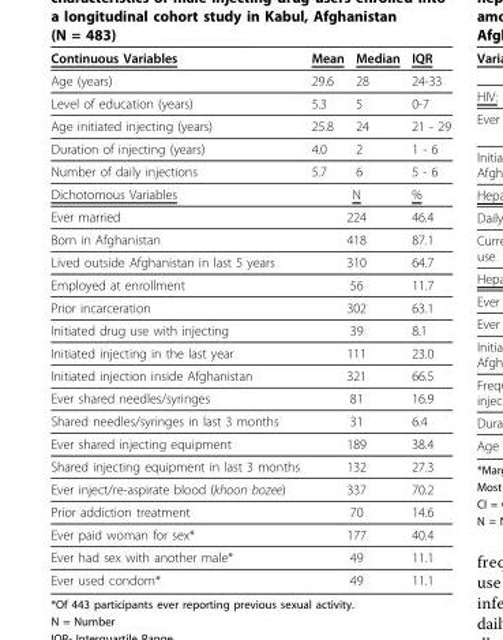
<table><thead><tr><td>Continuous Variables</td><td>Mean</td><td>Median</td><td>IQR</td></tr></thead><tbody><tr><td>Age (years)</td><td>29.6</td><td>28</td><td>24-33</td></tr><tr><td>Level of education (years)</td><td>5.3</td><td>5</td><td>0-7</td></tr><tr><td>Age initiated injecting (years)</td><td>25.8</td><td>24</td><td>21 - 29</td></tr><tr><td>Duration of injecting (years)</td><td>4.0</td><td>2</td><td>1 - 6</td></tr><tr><td>Number of daily injections</td><td>5.7</td><td>6</td><td>5 - 6</td></tr><tr><td>Dichotomous Variables</td><td colspan="2">N</td><td>%</td></tr><tr><td>Ever married</td><td colspan="2">224</td><td>46.4</td></tr><tr><td>Born in Afghanistan</td><td colspan="2">418</td><td>87.1</td></tr><tr><td>Lived outside Afghanistan in last 5 years</td><td colspan="2">310</td><td>64.7</td></tr><tr><td>Employed at enrollment</td><td colspan="2">56</td><td>11.7</td></tr><tr><td>Prior incarceration</td><td colspan="2">302</td><td>63.1</td></tr><tr><td>Initiated drug use with injecting</td><td colspan="2">39</td><td>8.1</td></tr><tr><td>Initiated injecting in the last year</td><td colspan="2">111</td><td>23.0</td></tr><tr><td>Initiated injection inside Afghanistan</td><td colspan="2">321</td><td>66.5</td></tr><tr><td>Ever shared needles/syringes</td><td colspan="2">81</td><td>16.9</td></tr><tr><td>Shared needles/syringes in last 3 months</td><td colspan="2">31</td><td>6.4</td></tr><tr><td>Ever shared injecting equipment</td><td colspan="2">189</td><td>38.4</td></tr><tr><td>Shared injecting equipment in last 3 months</td><td colspan="2">132</td><td>27.3</td></tr><tr><td>Ever inject/re-aspirate blood (khoon bozee)</td><td colspan="2">337</td><td>70.2</td></tr><tr><td>Prior addiction treatment</td><td colspan="2">70</td><td>14.6</td></tr><tr><td>Ever paid woman for sex*</td><td colspan="2">177</td><td>40.4</td></tr><tr><td>Ever had sex with another male*</td><td colspan="2">49</td><td>11.1</td></tr><tr><td>Ever used condom*</td><td colspan="2">49</td><td>11.1</td></tr></tbody></table>